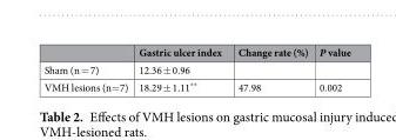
<table><thead><tr><td></td><td>Gastric ulcer index</td><td>Change rate (%)</td><td>P value</td></tr></thead><tbody><tr><td>Sham (n = 7)</td><td>12.36 ± 0.96</td><td></td><td></td></tr><tr><td>VMH lesions (n=7)</td><td>18.29 ± 1.11**</td><td>47.98</td><td>0.002</td></tr></tbody></table>